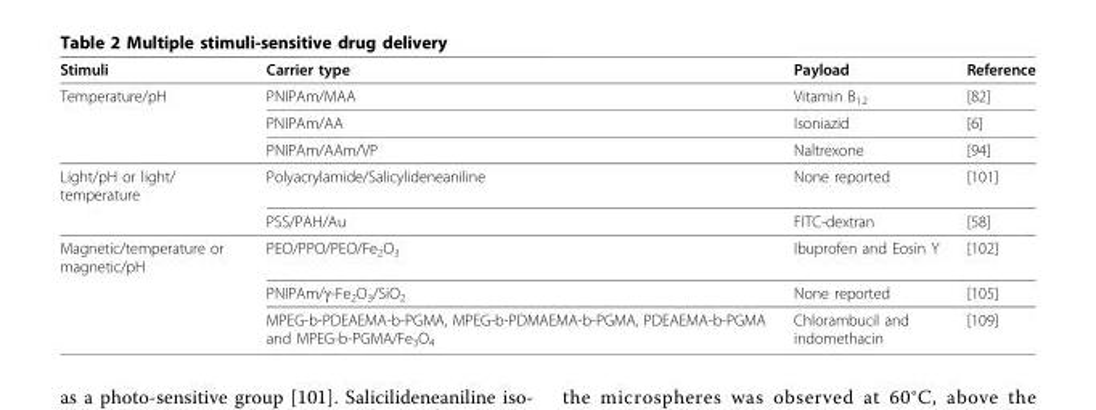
<table><thead><tr><td>Stimuli</td><td>Carrier type</td><td>Payload</td><td>Reference</td></tr></thead><tbody><tr><td rowspan="3">Temperature/pH</td><td>PNIPAm/MAA</td><td>Vitamin B<sub>12</sub></td><td>[82]</td></tr><tr><td>PNIPAm/AA</td><td>Isoniazid</td><td>[6]</td></tr><tr><td>PNIPAm/AAm/VP</td><td>Naltrexone</td><td>[94]</td></tr><tr><td rowspan="2">Light/pH or light/ temperature</td><td>Polyacrylamide/Salicylideneaniline</td><td>None reported</td><td>[101]</td></tr><tr><td>PSS/PAH/Au</td><td>FITC-dextran</td><td>[58]</td></tr><tr><td rowspan="3">Magnetic/temperature or magnetic/pH</td><td>PEO/PPO/PEO/Fe<sub>2</sub>O<sub>3</sub></td><td>Ibuprofen and Eosin Y</td><td>[102]</td></tr><tr><td>PNIPAm/γ-Fe<sub>2</sub>O<sub>3</sub>/SiO<sub>2</sub></td><td>None reported</td><td>[105]</td></tr><tr><td>MPEG-b-PDEAEMA-b-PGMA, MPEG-b-PDMAEMA-b-PGMA, PDEAEMA-b-PGMA and MPEG-b-PGMA/Fe<sub>3</sub>O<sub>4</sub></td><td>Chlorambucil and indomethacin</td><td>[109]</td></tr></tbody></table>